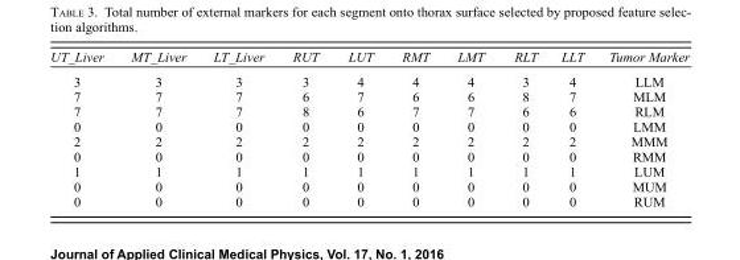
<table><thead><tr><td>UT_Liver</td><td>MT_Liver</td><td>LT_Liver</td><td>RUT</td><td>LUT</td><td>RMT</td><td>LMT</td><td>RLT</td><td>LLT</td><td>Tumor Marker</td></tr></thead><tbody><tr><td>3</td><td>3</td><td>3</td><td>3</td><td>4</td><td>4</td><td>4</td><td>3</td><td>4</td><td>LLM</td></tr><tr><td>7</td><td>7</td><td>7</td><td>6</td><td>7</td><td>6</td><td>6</td><td>8</td><td>7</td><td>MLM</td></tr><tr><td>7</td><td>7</td><td>7</td><td>8</td><td>6</td><td>7</td><td>7</td><td>6</td><td>6</td><td>RLM</td></tr><tr><td>0</td><td>0</td><td>0</td><td>0</td><td>0</td><td>0</td><td>0</td><td>0</td><td>0</td><td>LMM</td></tr><tr><td>2</td><td>2</td><td>2</td><td>2</td><td>2</td><td>2</td><td>2</td><td>2</td><td>2</td><td>MMM</td></tr><tr><td>0</td><td>0</td><td>0</td><td>0</td><td>0</td><td>0</td><td>0</td><td>0</td><td>0</td><td>RMM</td></tr><tr><td>1</td><td>1</td><td>1</td><td>1</td><td>1</td><td>1</td><td>1</td><td>1</td><td>1</td><td>LUM</td></tr><tr><td>0</td><td>0</td><td>0</td><td>0</td><td>0</td><td>0</td><td>0</td><td>0</td><td>0</td><td>MUM</td></tr><tr><td>0</td><td>0</td><td>0</td><td>0</td><td>0</td><td>0</td><td>0</td><td>0</td><td>0</td><td>RUM</td></tr></tbody></table>